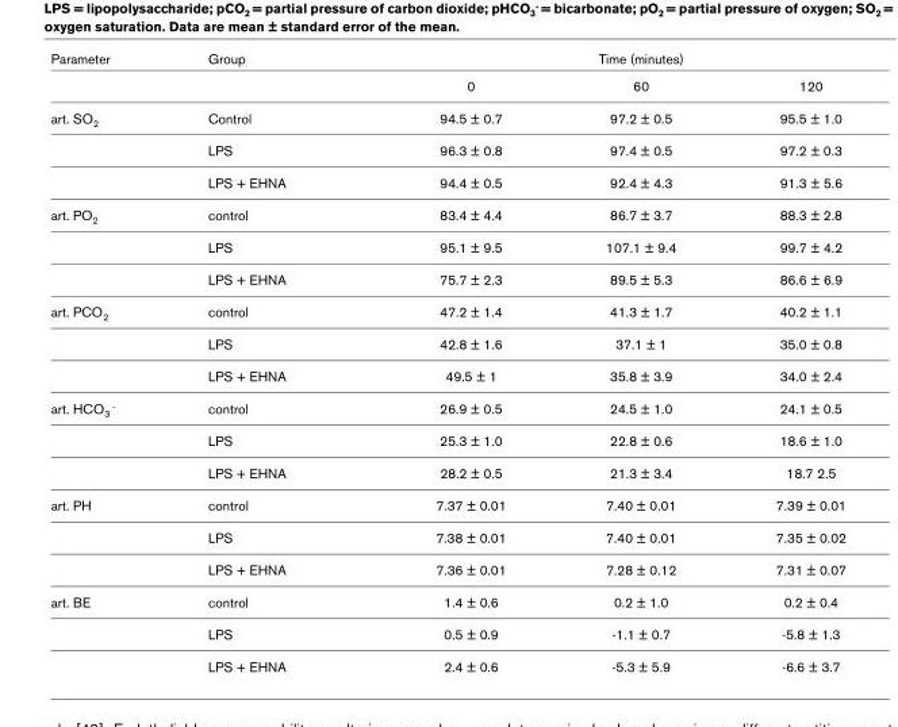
<table><thead><tr><td rowspan="2">Parameter</td><td rowspan="2">Group</td><td colspan="3">Time (minutes)</td></tr><tr><td>0</td><td>60</td><td>120</td></tr></thead><tbody><tr><td rowspan="3">art. SO2</td><td>Control</td><td>94.5 ± 0.7</td><td>97.2 ± 0.5</td><td>95.5 ± 1.0</td></tr><tr><td>LPS</td><td>96.3 ± 0.8</td><td>97.4 ± 0.5</td><td>97.2 ± 0.3</td></tr><tr><td>LPS + EHNA</td><td>94.4 ± 0.5</td><td>92.4 ± 4.3</td><td>91.3 ± 5.6</td></tr><tr><td rowspan="3">art. PO2</td><td>control</td><td>83.4 ± 4.4</td><td>86.7 ± 3.7</td><td>88.3 ± 2.8</td></tr><tr><td>LPS</td><td>95.1 ± 9.5</td><td>107.1 ± 9.4</td><td>99.7 ± 4.2</td></tr><tr><td>LPS + EHNA</td><td>75.7 ± 2.3</td><td>89.5 ± 5.3</td><td>86.6 ± 6.9</td></tr><tr><td rowspan="3">art. PCO2</td><td>control</td><td>47.2 ± 1.4</td><td>41.3 ± 1.7</td><td>40.2 ± 1.1</td></tr><tr><td>LPS</td><td>42.8 ± 1.6</td><td>37.1 ± 1</td><td>35.0 ± 0.8</td></tr><tr><td>LPS + EHNA</td><td>49.5 ± 1</td><td>35.8 ± 3.9</td><td>34.0 ± 2.4</td></tr><tr><td rowspan="3">art. HCO3 -</td><td>control</td><td>26.9 ± 0.5</td><td>24.5 ± 1.0</td><td>24.1 ± 0.5</td></tr><tr><td>LPS</td><td>25.3 ± 1.0</td><td>22.8 ± 0.6</td><td>18.6 ± 1.0</td></tr><tr><td>LPS + EHNA</td><td>28.2 ± 0.5</td><td>21.3 ± 3.4</td><td>18.7 2.5</td></tr><tr><td rowspan="3">art. PH</td><td>control</td><td>7.37 ± 0.01</td><td>7.40 ± 0.01</td><td>7.39 ± 0.01</td></tr><tr><td>LPS</td><td>7.38 ± 0.01</td><td>7.40 ± 0.01</td><td>7.35 ± 0.02</td></tr><tr><td>LPS + EHNA</td><td>7.36 ± 0.01</td><td>7.28 ± 0.12</td><td>7.31 ± 0.07</td></tr><tr><td rowspan="3">art. BE</td><td>control</td><td>1.4 ± 0.6</td><td>0.2 ± 1.0</td><td>0.2 ± 0.4</td></tr><tr><td>LPS</td><td>0.5 ± 0.9</td><td>-1.1 ± 0.7</td><td>-5.8 ± 1.3</td></tr><tr><td>LPS + EHNA</td><td>2.4 ± 0.6</td><td>-5.3 ± 5.9</td><td>-6.6 ± 3.7</td></tr></tbody></table>